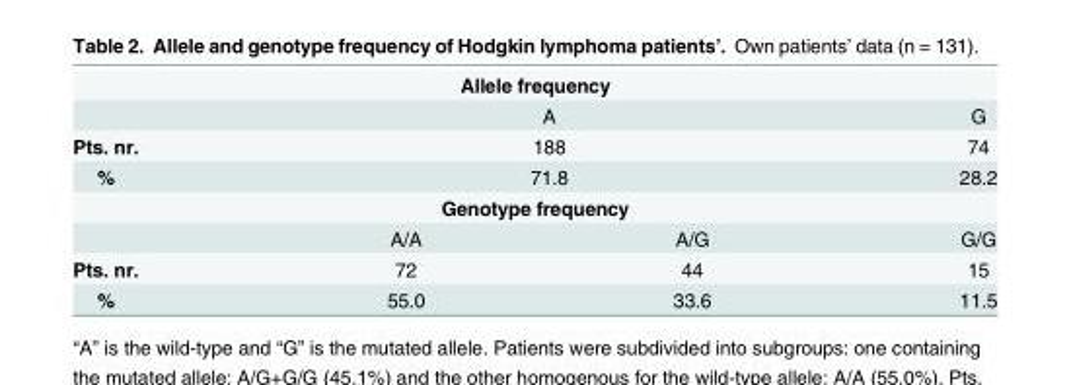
<table><tbody><tr><td colspan="4">Allele frequency</td></tr><tr><td></td><td colspan="2">A</td><td>G</td></tr><tr><td>Pts. nr.</td><td colspan="2">188</td><td>74</td></tr><tr><td>%</td><td colspan="2">71.8</td><td>28.2</td></tr><tr><td colspan="4">Genotype frequency</td></tr><tr><td></td><td>A/A</td><td>A/G</td><td>G/G</td></tr><tr><td>Pts. nr.</td><td>72</td><td>44</td><td>15</td></tr><tr><td>%</td><td>55.0</td><td>33.6</td><td>11.5</td></tr></tbody></table>